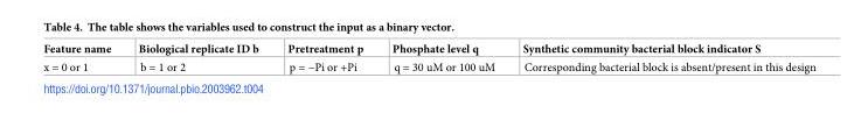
<table><thead><tr><td>Feature name</td><td>Biological replicate ID b</td><td>Pretreatment p</td><td>Phosphate level q</td><td>Synthetic community bacterial block indicator S</td></tr></thead><tbody><tr><td>x = 0 or 1</td><td>b = 1 or 2</td><td>p = −Pi or +Pi</td><td>q = 30 uM or 100 uM</td><td>Corresponding bacterial block is absent/present in this design</td></tr></tbody></table>